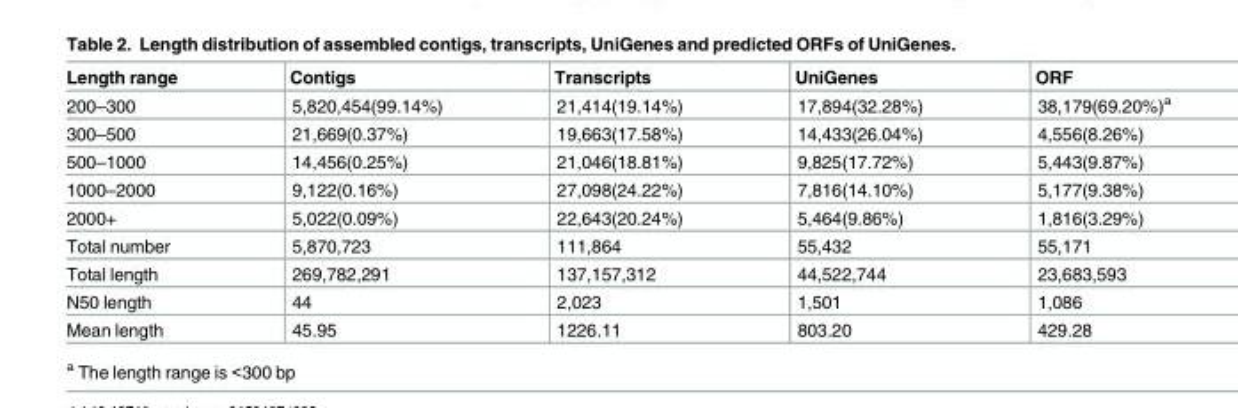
<table><thead><tr><td>Length range</td><td>Contigs</td><td>Transcripts</td><td>UniGenes</td><td>ORF</td></tr></thead><tbody><tr><td>200–300</td><td>5,820,454(99.14%)</td><td>21,414(19.14%)</td><td>17,894(32.28%)</td><td>38,179(69.20%)<sup>a</sup></td></tr><tr><td>300–500</td><td>21,669(0.37%)</td><td>19,663(17.58%)</td><td>14,433(26.04%)</td><td>4,556(8.26%)</td></tr><tr><td>500–1000</td><td>14,456(0.25%)</td><td>21,046(18.81%)</td><td>9,825(17.72%)</td><td>5,443(9.87%)</td></tr><tr><td>1000–2000</td><td>9,122(0.16%)</td><td>27,098(24.22%)</td><td>7,816(14.10%)</td><td>5,177(9.38%)</td></tr><tr><td>2000+</td><td>5,022(0.09%)</td><td>22,643(20.24%)</td><td>5,464(9.86%)</td><td>1,816(3.29%)</td></tr><tr><td>Total number</td><td>5,870,723</td><td>111,864</td><td>55,432</td><td>55,171</td></tr><tr><td>Total length</td><td>269,782,291</td><td>137,157,312</td><td>44,522,744</td><td>23,683,593</td></tr><tr><td>N50 length</td><td>44</td><td>2,023</td><td>1,501</td><td>1,086</td></tr><tr><td>Mean length</td><td>45.95</td><td>1226.11</td><td>803.20</td><td>429.28</td></tr></tbody></table>